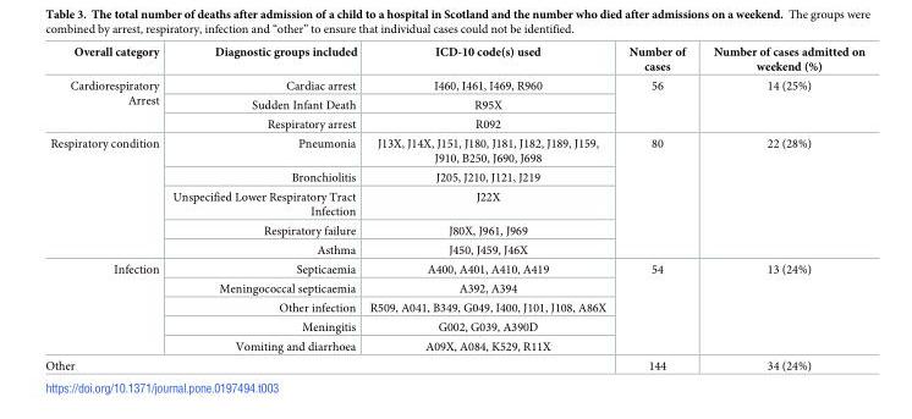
<table><thead><tr><td>Overall category</td><td>Diagnostic groups included</td><td>ICD-10 code(s) used</td><td>Number of cases</td><td>Number of cases admitted on weekend (%)</td></tr></thead><tbody><tr><td rowspan="3">Cardiorespiratory Arrest</td><td>Cardiac arrest</td><td>I460, I461, I469, R960</td><td rowspan="3">56</td><td rowspan="3">14 (25%)</td></tr><tr><td>Sudden Infant Death</td><td>R95X</td></tr><tr><td>Respiratory arrest</td><td>R092</td></tr><tr><td rowspan="5">Respiratory condition</td><td>Pneumonia</td><td>J13X, J14X, J151, J180, J181, J182, J189, J159, J910, B250, J690, J698</td><td rowspan="5">80</td><td rowspan="5">22 (28%)</td></tr><tr><td>Bronchiolitis</td><td>J205, J210, J121, J219</td></tr><tr><td>Unspecified Lower Respiratory Tract Infection</td><td>J22X</td></tr><tr><td>Respiratory failure</td><td>J80X, J961, J969</td></tr><tr><td>Asthma</td><td>J450, J459, J46X</td></tr><tr><td rowspan="5">Infection</td><td>Septicaemia</td><td>A400, A401, A410, A419</td><td rowspan="5">54</td><td rowspan="5">13 (24%)</td></tr><tr><td>Meningococcal septicaemia</td><td>A392, A394</td></tr><tr><td>Other infection</td><td>R509, A041, B349, G049, I400, J101, J108, A86X</td></tr><tr><td>Meningitis</td><td>G002, G039, A390D</td></tr><tr><td>Vomiting and diarrhoea</td><td>A09X, A084, K529, R11X</td></tr><tr><td colspan="3">Other</td><td>144</td><td>34 (24%)</td></tr></tbody></table>